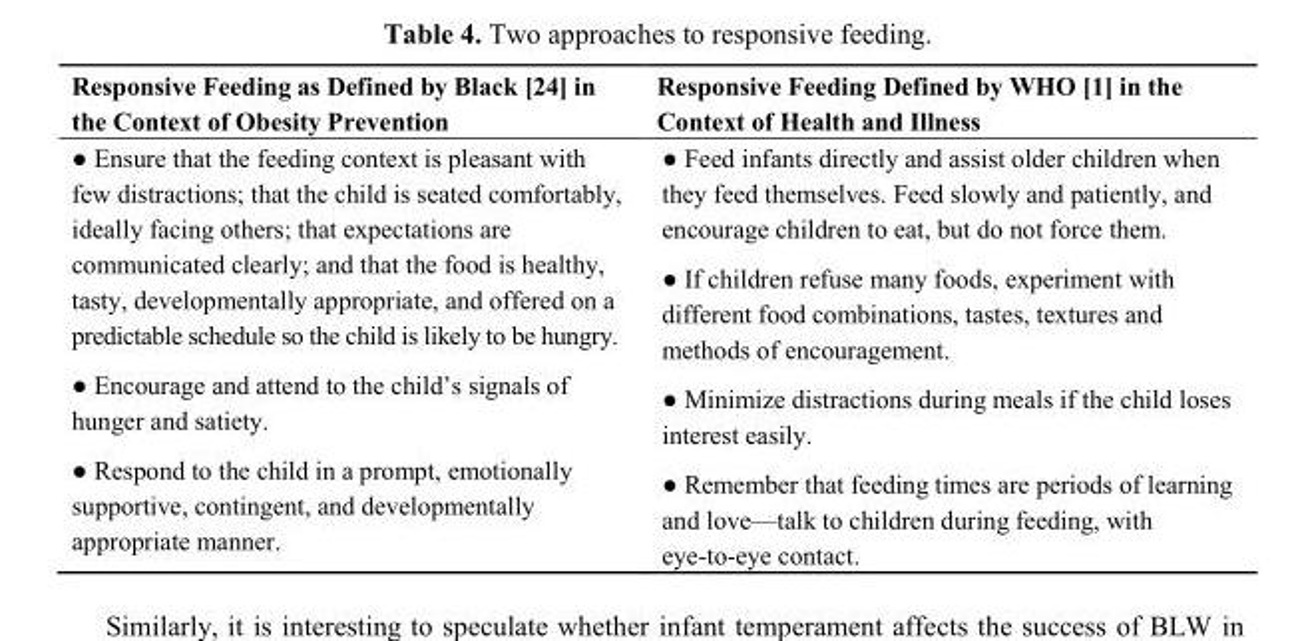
<table><thead><tr><td>Responsive Feeding as Defined by Black [24] in the Context of Obesity Prevention</td><td>Responsive Feeding Defined by WHO [1] in the Context of Health and Illness</td></tr></thead><tbody><tr><td>● Ensure that the feeding context is pleasant with few distractions; that the child is seated comfortably, ideally facing others; that expectations are communicated clearly; and that the food is healthy, tasty, developmentally appropriate, and offered on a predictable schedule so the child is likely to be hungry. ● Encourage and attend to the child’s signals of hunger and satiety. ● Respond to the child in a prompt, emotionally supportive, contingent, and developmentally appropriate manner.</td><td>● Feed infants directly and assist older children when they feed themselves. Feed slowly and patiently, and encourage children to eat, but do not force them. ● If children refuse many foods, experiment with different food combinations, tastes, textures and methods of encouragement. ● Minimize distractions during meals if the child loses interest easily. ● Remember that feeding times are periods of learning and love—talk to children during feeding, with eye-to-eye contact.</td></tr></tbody></table>